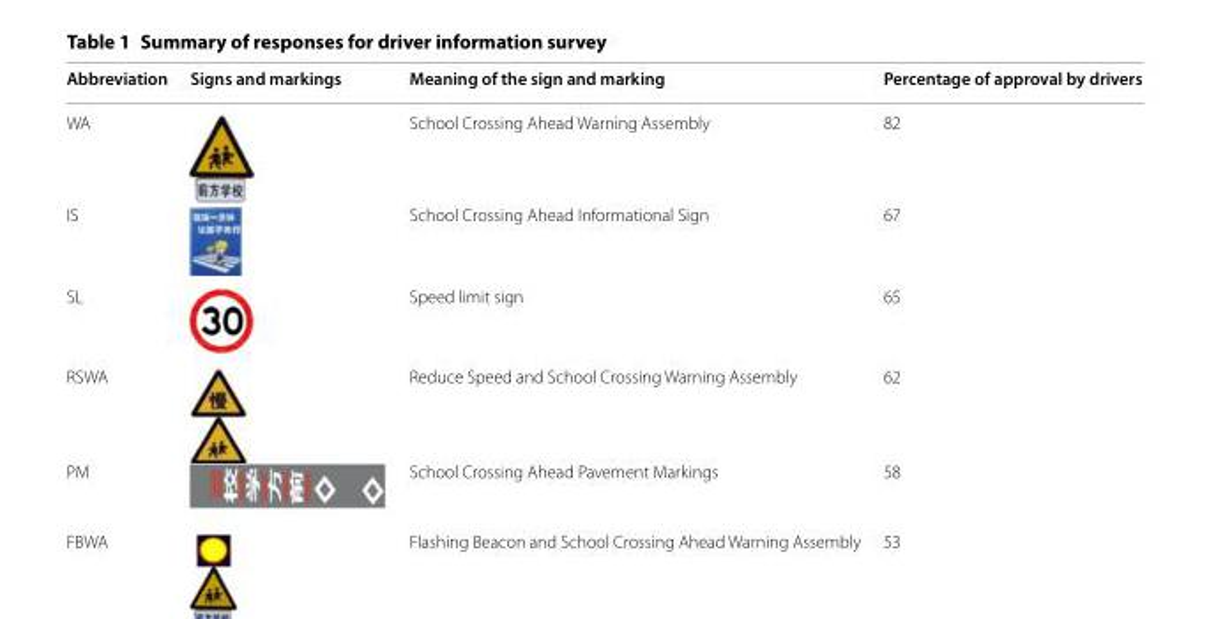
<table><thead><tr><td>Abbreviation</td><td>Signs and markings</td><td>Meaning of the sign and marking</td><td>Percentage of approval by drivers</td></tr></thead><tbody><tr><td>WA</td><td></td><td>School Crossing Ahead Warning Assembly</td><td>82</td></tr><tr><td>IS</td><td></td><td>School Crossing Ahead Informational Sign</td><td>67</td></tr><tr><td>SL</td><td></td><td>Speed limit sign</td><td>65</td></tr><tr><td>RSWA</td><td></td><td>Reduce Speed and School Crossing Warning Assembly</td><td>62</td></tr><tr><td>PM</td><td></td><td>School Crossing Ahead Pavement Markings</td><td>58</td></tr><tr><td>FBWA</td><td></td><td>Flashing Beacon and School Crossing Ahead Warning Assembly</td><td>53</td></tr></tbody></table>